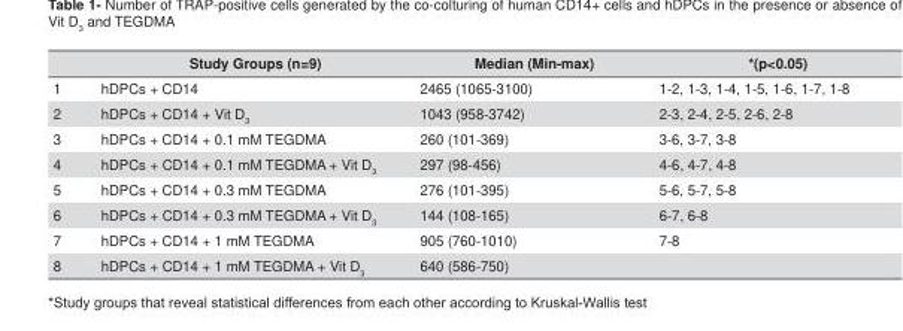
<table><thead><tr><td></td><td>Study Groups (n=9)</td><td>Median (Min-max)</td><td>*(p&lt;0.05)</td></tr></thead><tbody><tr><td>1</td><td>hDPCs + CD14</td><td>2465 (1065-3100)</td><td>1-2, 1-3, 1-4, 1-5, 1-6, 1-7, 1-8</td></tr><tr><td>2</td><td>hDPCs + CD14 + Vit D<sub>3</sub></td><td>1043 (958-3742)</td><td>2-3, 2-4, 2-5, 2-6, 2-8</td></tr><tr><td>3</td><td>hDPCs + CD14 + 0.1 mM TEGDMA</td><td>260 (101-369)</td><td>3-6, 3-7, 3-8</td></tr><tr><td>4</td><td>hDPCs + CD14 + 0.1 mM TEGDMA + Vit D<sub>3</sub></td><td>297 (98-456)</td><td>4-6, 4-7, 4-8</td></tr><tr><td>5</td><td>hDPCs + CD14 + 0.3 mM TEGDMA</td><td>276 (101-395)</td><td>5-6, 5-7, 5-8</td></tr><tr><td>6</td><td>hDPCs + CD14 + 0.3 mM TEGDMA + Vit D<sub>3</sub></td><td>144 (108-165)</td><td>6-7, 6-8</td></tr><tr><td>7</td><td>hDPCs + CD14 + 1 mM TEGDMA</td><td>905 (760-1010)</td><td>7-8</td></tr><tr><td>8</td><td>hDPCs + CD14 + 1 mM TEGDMA + Vit D<sub>3</sub></td><td>640 (586-750)</td><td></td></tr></tbody></table>